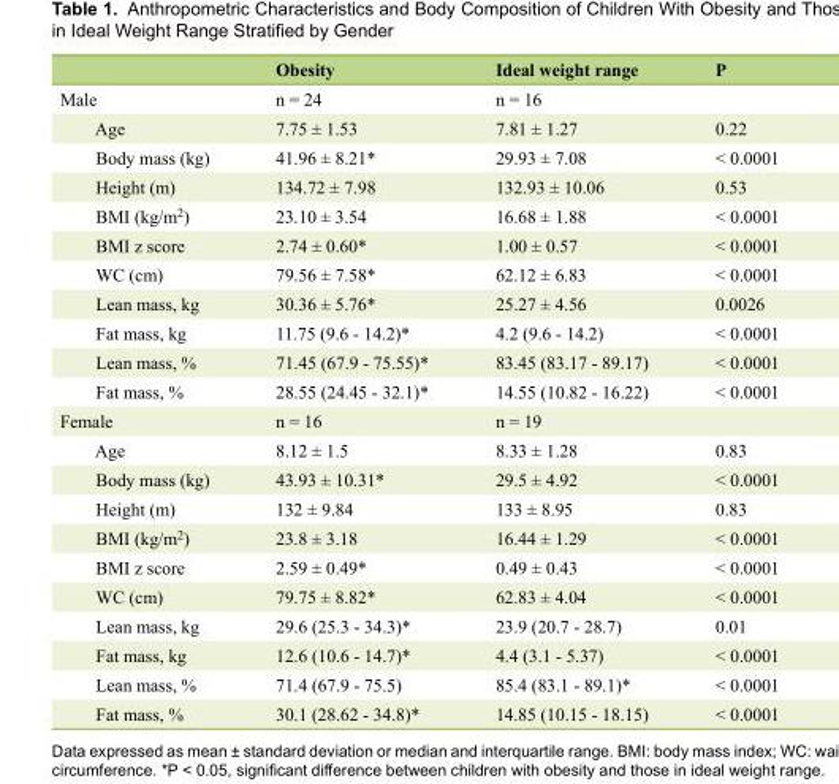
<table><thead><tr><td></td><td>Obesity</td><td>Ideal weight range</td><td>P</td></tr></thead><tbody><tr><td>Male</td><td>n = 24</td><td>n = 16</td><td></td></tr><tr><td>Age</td><td>7.75 ± 1.53</td><td>7.81 ± 1.27</td><td>0.22</td></tr><tr><td>Body mass (kg)</td><td>41.96 ± 8.21*</td><td>29.93 ± 7.08</td><td>&lt; 0.0001</td></tr><tr><td>Height (m)</td><td>134.72 ± 7.98</td><td>132.93 ± 10.06</td><td>0.53</td></tr><tr><td>BMI (kg/m<sup>2</sup>)</td><td>23.10 ± 3.54</td><td>16.68 ± 1.88</td><td>&lt; 0.0001</td></tr><tr><td>BMI z score</td><td>2.74 ± 0.60*</td><td>1.00 ± 0.57</td><td>&lt; 0.0001</td></tr><tr><td>WC (cm)</td><td>79.56 ± 7.58*</td><td>62.12 ± 6.83</td><td>&lt; 0.0001</td></tr><tr><td>Lean mass, kg</td><td>30.36 ± 5.76*</td><td>25.27 ± 4.56</td><td>0.0026</td></tr><tr><td>Fat mass, kg</td><td>11.75 (9.6 - 14.2)*</td><td>4.2 (9.6 - 14.2)</td><td>&lt; 0.0001</td></tr><tr><td>Lean mass, %</td><td>71.45 (67.9 - 75.55)*</td><td>83.45 (83.17 - 89.17)</td><td>&lt; 0.0001</td></tr><tr><td>Fat mass, %</td><td>28.55 (24.45 - 32.1)*</td><td>14.55 (10.82 - 16.22)</td><td>&lt; 0.0001</td></tr><tr><td>Female</td><td>n = 16</td><td>n = 19</td><td></td></tr><tr><td>Age</td><td>8.12 ± 1.5</td><td>8.33 ± 1.28</td><td>0.83</td></tr><tr><td>Body mass (kg)</td><td>43.93 ± 10.31*</td><td>29.5 ± 4.92</td><td>&lt; 0.0001</td></tr><tr><td>Height (m)</td><td>132 ± 9.84</td><td>133 ± 8.95</td><td>0.83</td></tr><tr><td>BMI (kg/m<sup>2</sup>)</td><td>23.8 ± 3.18</td><td>16.44 ± 1.29</td><td>&lt; 0.0001</td></tr><tr><td>BMI z score</td><td>2.59 ± 0.49*</td><td>0.49 ± 0.43</td><td>&lt; 0.0001</td></tr><tr><td>WC (cm)</td><td>79.75 ± 8.82*</td><td>62.83 ± 4.04</td><td>&lt; 0.0001</td></tr><tr><td>Lean mass, kg</td><td>29.6 (25.3 - 34.3)*</td><td>23.9 (20.7 - 28.7)</td><td>0.01</td></tr><tr><td>Fat mass, kg</td><td>12.6 (10.6 - 14.7)*</td><td>4.4 (3.1 - 5.37)</td><td>&lt; 0.0001</td></tr><tr><td>Lean mass, %</td><td>71.4 (67.9 - 75.5)</td><td>85.4 (83.1 - 89.1)*</td><td>&lt; 0.0001</td></tr><tr><td>Fat mass, %</td><td>30.1 (28.62 - 34.8)*</td><td>14.85 (10.15 - 18.15)</td><td>&lt; 0.0001</td></tr></tbody></table>